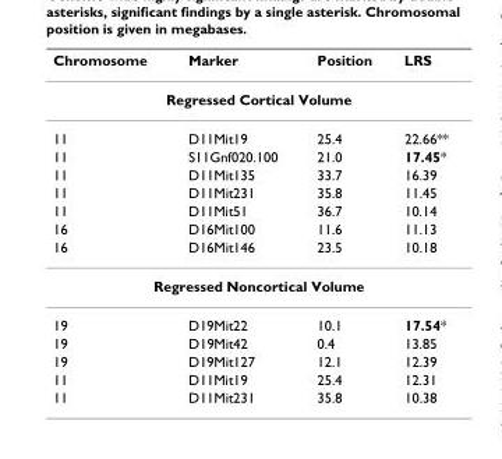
<table><thead><tr><td>Chromosome</td><td>Marker</td><td>Position</td><td>LRS</td></tr></thead><tbody><tr><td colspan="4">Regressed Cortical Volume</td></tr><tr><td>11</td><td>D11Mit19</td><td>25.4</td><td>22.66**</td></tr><tr><td>11</td><td>S11Gnf020.100</td><td>21.0</td><td>17.45*</td></tr><tr><td>11</td><td>D11Mit135</td><td>33.7</td><td>16.39</td></tr><tr><td>11</td><td>D11Mit231</td><td>35.8</td><td>11.45</td></tr><tr><td>11</td><td>D11Mit51</td><td>36.7</td><td>10.14</td></tr><tr><td>16</td><td>D16Mit100</td><td>11.6</td><td>11.13</td></tr><tr><td>16</td><td>D16Mit146</td><td>23.5</td><td>10.18</td></tr><tr><td colspan="4">Regressed Noncortical Volume</td></tr><tr><td>19</td><td>D19Mit22</td><td>10.1</td><td>17.54*</td></tr><tr><td>19</td><td>D19Mit42</td><td>0.4</td><td>13.85</td></tr><tr><td>19</td><td>D19Mit127</td><td>12.1</td><td>12.39</td></tr><tr><td>11</td><td>D11Mit19</td><td>25.4</td><td>12.31</td></tr><tr><td>11</td><td>D11Mit231</td><td>35.8</td><td>10.38</td></tr></tbody></table>